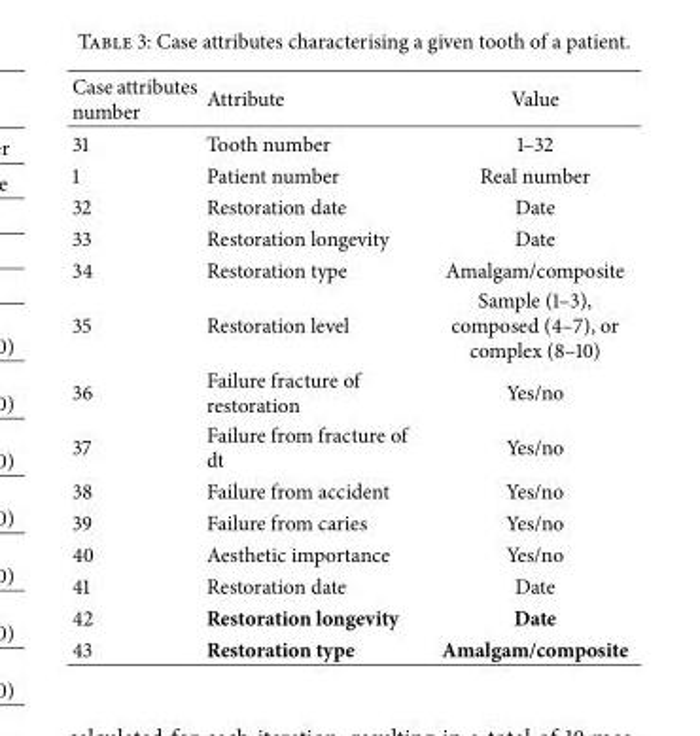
<table><thead><tr><td>Case attributes number</td><td>Attribute</td><td>Value</td></tr></thead><tbody><tr><td>31</td><td>Tooth number</td><td>1–32</td></tr><tr><td>1</td><td>Patient number</td><td>Real number</td></tr><tr><td>32</td><td>Restoration date</td><td>Date</td></tr><tr><td>33</td><td>Restoration longevity</td><td>Date</td></tr><tr><td>34</td><td>Restoration type</td><td>Amalgam/composite</td></tr><tr><td>35</td><td>Restoration level</td><td>Sample (1–3), composed (4–7), or complex (8–10)</td></tr><tr><td>36</td><td>Failure fracture of restoration</td><td>Yes/no</td></tr><tr><td>37</td><td>Failure from fracture of dt</td><td>Yes/no</td></tr><tr><td>38</td><td>Failure from accident</td><td>Yes/no</td></tr><tr><td>39</td><td>Failure from caries</td><td>Yes/no</td></tr><tr><td>40</td><td>Aesthetic importance</td><td>Yes/no</td></tr><tr><td>41</td><td>Restoration date</td><td>Date</td></tr><tr><td>42</td><td>Restoration longevity</td><td>Date</td></tr><tr><td>43</td><td>Restoration type</td><td>Amalgam/composite</td></tr></tbody></table>